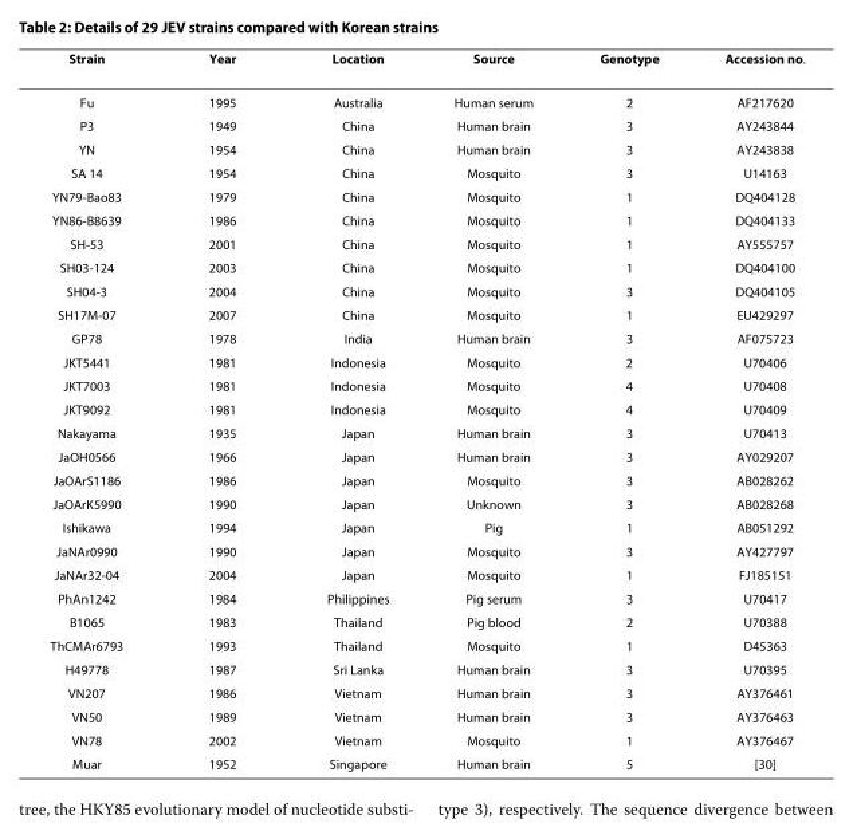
<table><thead><tr><td>Strain</td><td>Year</td><td>Location</td><td>Source</td><td>Genotype</td><td>Accession no.</td></tr></thead><tbody><tr><td>Fu</td><td>1995</td><td>Australia</td><td>Human serum</td><td>2</td><td>AF217620</td></tr><tr><td>P3</td><td>1949</td><td>China</td><td>Human brain</td><td>3</td><td>AY243844</td></tr><tr><td>YN</td><td>1954</td><td>China</td><td>Human brain</td><td>3</td><td>AY243838</td></tr><tr><td>SA 14</td><td>1954</td><td>China</td><td>Mosquito</td><td>3</td><td>U14163</td></tr><tr><td>YN79-Bao83</td><td>1979</td><td>China</td><td>Mosquito</td><td>1</td><td>DQ404128</td></tr><tr><td>YN86-B8639</td><td>1986</td><td>China</td><td>Mosquito</td><td>1</td><td>DQ404133</td></tr><tr><td>SH-53</td><td>2001</td><td>China</td><td>Mosquito</td><td>1</td><td>AY555757</td></tr><tr><td>SH03-124</td><td>2003</td><td>China</td><td>Mosquito</td><td>1</td><td>DQ404100</td></tr><tr><td>SH04-3</td><td>2004</td><td>China</td><td>Mosquito</td><td>3</td><td>DQ404105</td></tr><tr><td>SH17M-07</td><td>2007</td><td>China</td><td>Mosquito</td><td>1</td><td>EU429297</td></tr><tr><td>GP78</td><td>1978</td><td>India</td><td>Human brain</td><td>3</td><td>AF075723</td></tr><tr><td>JKT5441</td><td>1981</td><td>Indonesia</td><td>Mosquito</td><td>2</td><td>U70406</td></tr><tr><td>JKT7003</td><td>1981</td><td>Indonesia</td><td>Mosquito</td><td>4</td><td>U70408</td></tr><tr><td>JKT9092</td><td>1981</td><td>Indonesia</td><td>Mosquito</td><td>4</td><td>U70409</td></tr><tr><td>Nakayama</td><td>1935</td><td>Japan</td><td>Human brain</td><td>3</td><td>U70413</td></tr><tr><td>JaOH0566</td><td>1966</td><td>Japan</td><td>Human brain</td><td>3</td><td>AY029207</td></tr><tr><td>JaOArS1186</td><td>1986</td><td>Japan</td><td>Mosquito</td><td>3</td><td>AB028262</td></tr><tr><td>JaOArK5990</td><td>1990</td><td>Japan</td><td>Unknown</td><td>3</td><td>AB028268</td></tr><tr><td>Ishikawa</td><td>1994</td><td>Japan</td><td>Pig</td><td>1</td><td>AB051292</td></tr><tr><td>JaNAr0990</td><td>1990</td><td>Japan</td><td>Mosquito</td><td>3</td><td>AY427797</td></tr><tr><td>JaNAr32-04</td><td>2004</td><td>Japan</td><td>Mosquito</td><td>1</td><td>FJ185151</td></tr><tr><td>PhAn1242</td><td>1984</td><td>Philippines</td><td>Pig serum</td><td>3</td><td>U70417</td></tr><tr><td>B1065</td><td>1983</td><td>Thailand</td><td>Pig blood</td><td>2</td><td>U70388</td></tr><tr><td>ThCMAr6793</td><td>1993</td><td>Thailand</td><td>Mosquito</td><td>1</td><td>D45363</td></tr><tr><td>H49778</td><td>1987</td><td>Sri Lanka</td><td>Human brain</td><td>3</td><td>U70395</td></tr><tr><td>VN207</td><td>1986</td><td>Vietnam</td><td>Human brain</td><td>3</td><td>AY376461</td></tr><tr><td>VN50</td><td>1989</td><td>Vietnam</td><td>Human brain</td><td>3</td><td>AY376463</td></tr><tr><td>VN78</td><td>2002</td><td>Vietnam</td><td>Mosquito</td><td>1</td><td>AY376467</td></tr><tr><td>Muar</td><td>1952</td><td>Singapore</td><td>Human brain</td><td>5</td><td>[30]</td></tr></tbody></table>